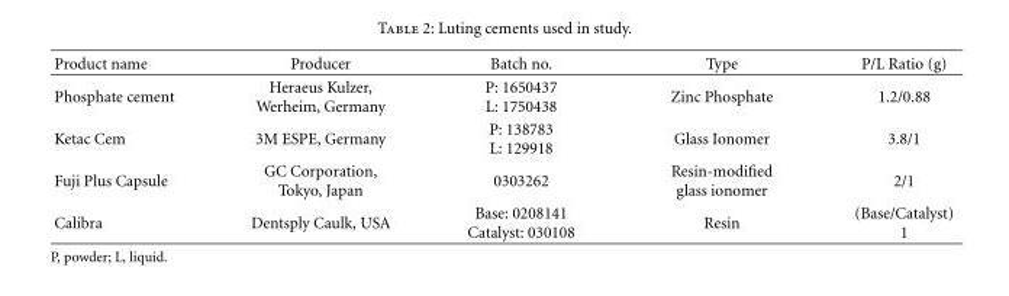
<table><thead><tr><td>Product name</td><td>Producer</td><td>Batch no.</td><td>Type</td><td>P/L Ratio (g)</td></tr></thead><tbody><tr><td>Phosphate cement</td><td>Heraeus Kulzer, Werheim, Germany</td><td>P: 1650437 L: 1750438</td><td>Zinc Phosphate</td><td>1.2/0.88</td></tr><tr><td>Ketac Cem</td><td>3M ESPE, Germany</td><td>P: 138783 L: 129918</td><td>Glass Ionomer</td><td>3.8/1</td></tr><tr><td>Fuji Plus Capsule</td><td>GC Corporation, Tokyo, Japan</td><td>0303262</td><td>Resin-modified glass ionomer</td><td>2/1</td></tr><tr><td>Calibra</td><td>Dentsply Caulk, USA</td><td>Base: 0208141 Catalyst: 030108</td><td>Resin</td><td>(Base/Catalyst) 1</td></tr></tbody></table>